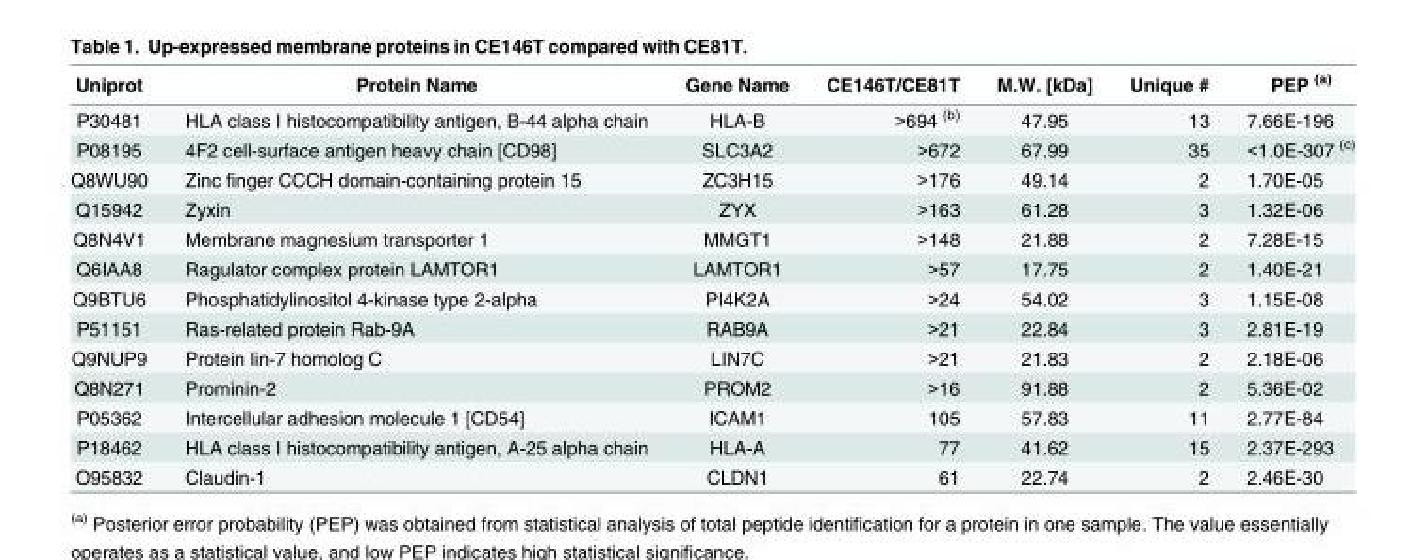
<table><thead><tr><td>Uniprot</td><td>Protein Name</td><td>Gene Name</td><td>CE146T/CE81T</td><td>M.W. [kDa]</td><td>Unique #</td><td>PEP <sup>(a)</sup></td></tr></thead><tbody><tr><td>P30481</td><td>HLA class I histocompatibility antigen, B-44 alpha chain</td><td>HLA-B</td><td>&gt;694 <sup>(b)</sup></td><td>47.95</td><td>13</td><td>7.66E-196</td></tr><tr><td>P08195</td><td>4F2 cell-surface antigen heavy chain [CD98]</td><td>SLC3A2</td><td>&gt;672</td><td>67.99</td><td>35</td><td>&lt;1.0E-307 <sup>(c)</sup></td></tr><tr><td>Q8WU90</td><td>Zinc finger CCCH domain-containing protein 15</td><td>ZC3H15</td><td>&gt;176</td><td>49.14</td><td>2</td><td>1.70E-05</td></tr><tr><td>Q15942</td><td>Zyxin</td><td>ZYX</td><td>&gt;163</td><td>61.28</td><td>3</td><td>1.32E-06</td></tr><tr><td>Q8N4V1</td><td>Membrane magnesium transporter 1</td><td>MMGT1</td><td>&gt;148</td><td>21.88</td><td>2</td><td>7.28E-15</td></tr><tr><td>Q6IAA8</td><td>Ragulator complex protein LAMTOR1</td><td>LAMTOR1</td><td>&gt;57</td><td>17.75</td><td>2</td><td>1.40E-21</td></tr><tr><td>Q9BTU6</td><td>Phosphatidylinositol 4-kinase type 2-alpha</td><td>PI4K2A</td><td>&gt;24</td><td>54.02</td><td>3</td><td>1.15E-08</td></tr><tr><td>P51151</td><td>Ras-related protein Rab-9A</td><td>RAB9A</td><td>&gt;21</td><td>22.84</td><td>3</td><td>2.81E-19</td></tr><tr><td>Q9NUP9</td><td>Protein lin-7 homolog C</td><td>LIN7C</td><td>&gt;21</td><td>21.83</td><td>2</td><td>2.18E-06</td></tr><tr><td>Q8N271</td><td>Prominin-2</td><td>PROM2</td><td>&gt;16</td><td>91.88</td><td>2</td><td>5.36E-02</td></tr><tr><td>P05362</td><td>Intercellular adhesion molecule 1 [CD54]</td><td>ICAM1</td><td>105</td><td>57.83</td><td>11</td><td>2.77E-84</td></tr><tr><td>P18462</td><td>HLA class I histocompatibility antigen, A-25 alpha chain</td><td>HLA-A</td><td>77</td><td>41.62</td><td>15</td><td>2.37E-293</td></tr><tr><td>O95832</td><td>Claudin-1</td><td>CLDN1</td><td>61</td><td>22.74</td><td>2</td><td>2.46E-30</td></tr></tbody></table>